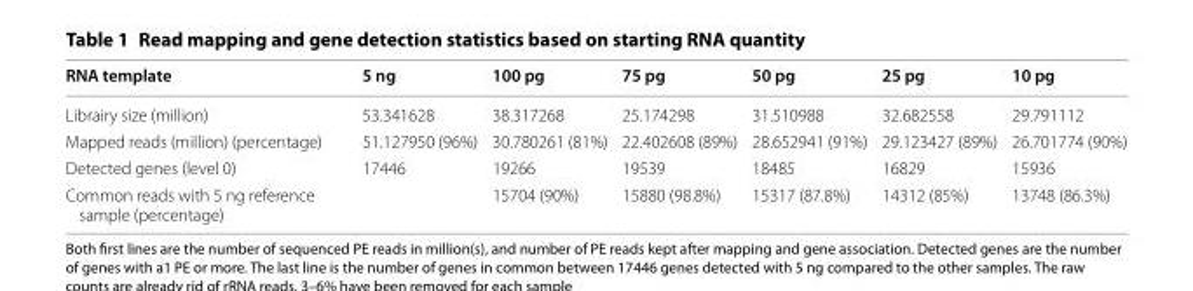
<table><thead><tr><td>RNA template</td><td>5 ng</td><td>100 pg</td><td>75 pg</td><td>50 pg</td><td>25 pg</td><td>10 pg</td></tr></thead><tbody><tr><td>Librairy size (million)</td><td>53.341628</td><td>38.317268</td><td>25.174298</td><td>31.510988</td><td>32.682558</td><td>29.791112</td></tr><tr><td>Mapped reads (million) (percentage)</td><td>51.127950 (96%)</td><td>30.780261 (81%)</td><td>22.402608 (89%)</td><td>28.652941 (91%)</td><td>29.123427 (89%)</td><td>26.701774 (90%)</td></tr><tr><td>Detected genes (level 0)</td><td>17446</td><td>19266</td><td>19539</td><td>18485</td><td>16829</td><td>15936</td></tr><tr><td>Common reads with 5 ng reference sample (percentage)</td><td></td><td>15704 (90%)</td><td>15880 (98.8%)</td><td>15317 (87.8%)</td><td>14312 (85%)</td><td>13748 (86.3%)</td></tr></tbody></table>